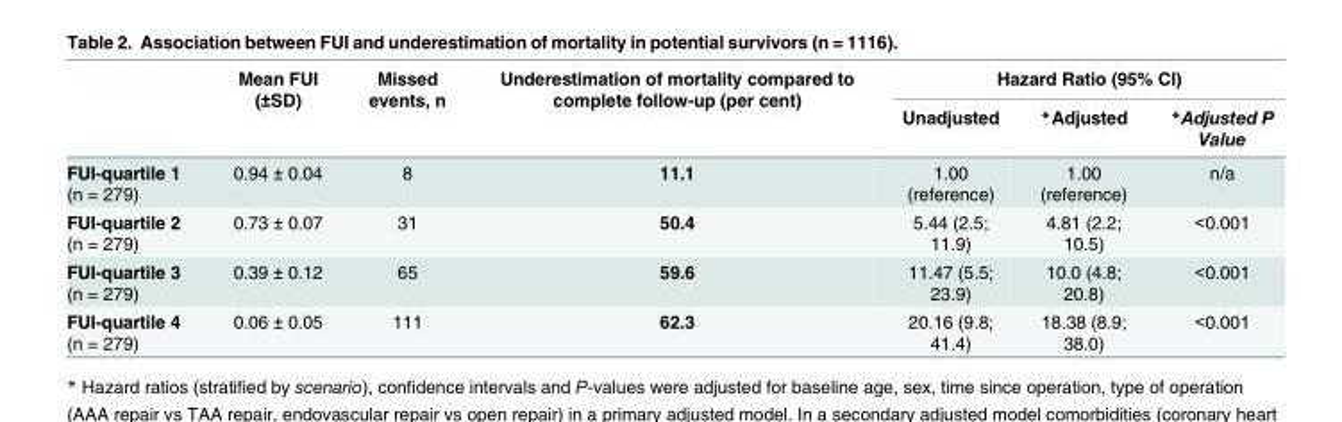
<table><thead><tr><td rowspan="2"></td><td rowspan="2">Mean FUI (±SD)</td><td rowspan="2">Missed events, n</td><td rowspan="2">Underestimation of mortality compared to complete follow-up (per cent)</td><td colspan="3">Hazard Ratio (95% CI)</td></tr><tr><td>Unadjusted</td><td>*Adjusted</td><td>*Adjusted P Value</td></tr></thead><tbody><tr><td>FUI-quartile 1 (n = 279)</td><td>0.94 ± 0.04</td><td>8</td><td>11.1</td><td>1.00 (reference)</td><td>1.00 (reference)</td><td>n/a</td></tr><tr><td>FUI-quartile 2 (n = 279)</td><td>0.73 ± 0.07</td><td>31</td><td>50.4</td><td>5.44 (2.5; 11.9)</td><td>4.81 (2.2; 10.5)</td><td>&lt;0.001</td></tr><tr><td>FUI-quartile 3 (n = 279)</td><td>0.39 ± 0.12</td><td>65</td><td>59.6</td><td>11.47 (5.5; 23.9)</td><td>10.0 (4.8; 20.8)</td><td>&lt;0.001</td></tr><tr><td>FUI-quartile 4 (n = 279)</td><td>0.06 ± 0.05</td><td>111</td><td>62.3</td><td>20.16 (9.8; 41.4)</td><td>18.38 (8.9; 38.0)</td><td>&lt;0.001</td></tr></tbody></table>